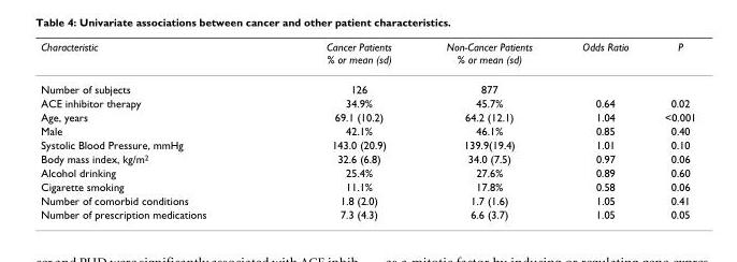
<table><thead><tr><td>Characteristic</td><td>Cancer Patients % or mean (sd)</td><td>Non-Cancer Patients % or mean (sd)</td><td>Odds Ratio</td><td>P</td></tr></thead><tbody><tr><td>Number of subjects</td><td>126</td><td>877</td><td></td><td></td></tr><tr><td>ACE inhibitor therapy</td><td>34.9%</td><td>45.7%</td><td>0.64</td><td>0.02</td></tr><tr><td>Age, years</td><td>69.1 (10.2)</td><td>64.2 (12.1)</td><td>1.04</td><td>&lt;0.001</td></tr><tr><td>Male</td><td>42.1%</td><td>46.1%</td><td>0.85</td><td>0.40</td></tr><tr><td>Systolic Blood Pressure, mmHg</td><td>143.0 (20.9)</td><td>139.9(19.4)</td><td>1.01</td><td>0.10</td></tr><tr><td>Body mass index, kg/m<sup>2</sup></td><td>32.6 (6.8)</td><td>34.0 (7.5)</td><td>0.97</td><td>0.06</td></tr><tr><td>Alcohol drinking</td><td>25.4%</td><td>27.6%</td><td>0.89</td><td>0.60</td></tr><tr><td>Cigarette smoking</td><td>11.1%</td><td>17.8%</td><td>0.58</td><td>0.06</td></tr><tr><td>Number of comorbid conditions</td><td>1.8 (2.0)</td><td>1.7 (1.6)</td><td>1.05</td><td>0.41</td></tr><tr><td>Number of prescription medications</td><td>7.3 (4.3)</td><td>6.6 (3.7)</td><td>1.05</td><td>0.05</td></tr></tbody></table>